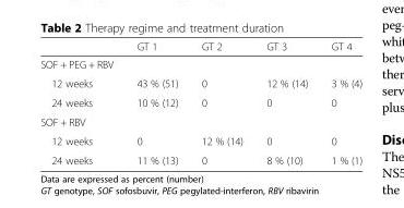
<table><thead><tr><td></td><td>GT 1</td><td>GT 2</td><td>GT 3</td><td>GT 4</td></tr></thead><tbody><tr><td colspan="5">SOF + PEG + RBV</td></tr><tr><td>12 weeks</td><td>43 % (51)</td><td>0</td><td>12 % (14)</td><td>3 % (4)</td></tr><tr><td>24 weeks</td><td>10 % (12)</td><td>0</td><td>0</td><td>0</td></tr><tr><td colspan="5">SOF + RBV</td></tr><tr><td>12 weeks</td><td>0</td><td>12 % (14)</td><td>0</td><td>0</td></tr><tr><td>24 weeks</td><td>11 % (13)</td><td>0</td><td>8 % (10)</td><td>1 % (1)</td></tr></tbody></table>